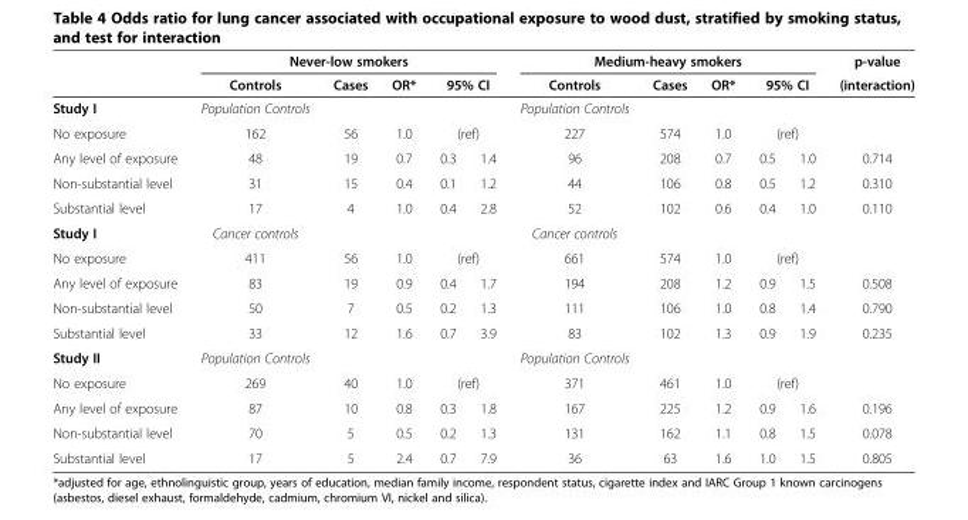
<table><thead><tr><td rowspan="3">Study I</td><td colspan="5">Never-low smokers</td><td colspan="5">Medium-heavy smokers</td><td rowspan="3">p-value (interaction)</td></tr><tr><td rowspan="2">Controls Population Controls</td><td rowspan="2">Cases</td><td rowspan="2">OR*</td><td colspan="2">95% CI</td><td rowspan="2">Controls Population Controls</td><td rowspan="2">Cases</td><td rowspan="2">OR*</td><td colspan="2">95% CI</td></tr><tr><td></td><td></td><td></td><td></td></tr></thead><tbody><tr><td>No exposure</td><td>162</td><td>56</td><td>1.0</td><td colspan="2">(ref)</td><td>227</td><td>574</td><td>1.0</td><td colspan="2">(ref)</td><td></td></tr><tr><td>Any level of exposure</td><td>48</td><td>19</td><td>0.7</td><td>0.3</td><td>1.4</td><td>96</td><td>208</td><td>0.7</td><td>0.5</td><td>1.0</td><td>0.714</td></tr><tr><td>Non-substantial level</td><td>31</td><td>15</td><td>0.4</td><td>0.1</td><td>1.2</td><td>44</td><td>106</td><td>0.8</td><td>0.5</td><td>1.2</td><td>0.310</td></tr><tr><td>Substantial level</td><td>17</td><td>4</td><td>1.0</td><td>0.4</td><td>2.8</td><td>52</td><td>102</td><td>0.6</td><td>0.4</td><td>1.0</td><td>0.110</td></tr><tr><td>Study I</td><td>Cancer controls</td><td></td><td></td><td></td><td></td><td>Cancer controls</td><td></td><td></td><td></td><td></td><td></td></tr><tr><td>No exposure</td><td>411</td><td>56</td><td>1.0</td><td colspan="2">(ref)</td><td>661</td><td>574</td><td>1.0</td><td colspan="2">(ref)</td><td></td></tr><tr><td>Any level of exposure</td><td>83</td><td>19</td><td>0.9</td><td>0.4</td><td>1.7</td><td>194</td><td>208</td><td>1.2</td><td>0.9</td><td>1.5</td><td>0.508</td></tr><tr><td>Non-substantial level</td><td>50</td><td>7</td><td>0.5</td><td>0.2</td><td>1.3</td><td>111</td><td>106</td><td>1.0</td><td>0.8</td><td>1.4</td><td>0.790</td></tr><tr><td>Substantial level</td><td>33</td><td>12</td><td>1.6</td><td>0.7</td><td>3.9</td><td>83</td><td>102</td><td>1.3</td><td>0.9</td><td>1.9</td><td>0.235</td></tr><tr><td>Study II</td><td>Population Controls</td><td></td><td></td><td></td><td></td><td>Population Controls</td><td></td><td></td><td></td><td></td><td></td></tr><tr><td>No exposure</td><td>269</td><td>40</td><td>1.0</td><td colspan="2">(ref)</td><td>371</td><td>461</td><td>1.0</td><td colspan="2">(ref)</td><td></td></tr><tr><td>Any level of exposure</td><td>87</td><td>10</td><td>0.8</td><td>0.3</td><td>1.8</td><td>167</td><td>225</td><td>1.2</td><td>0.9</td><td>1.6</td><td>0.196</td></tr><tr><td>Non-substantial level</td><td>70</td><td>5</td><td>0.5</td><td>0.2</td><td>1.3</td><td>131</td><td>162</td><td>1.1</td><td>0.8</td><td>1.5</td><td>0.078</td></tr><tr><td>Substantial level</td><td>17</td><td>5</td><td>2.4</td><td>0.7</td><td>7.9</td><td>36</td><td>63</td><td>1.6</td><td>1.0</td><td>1.5</td><td>0.805</td></tr></tbody></table>